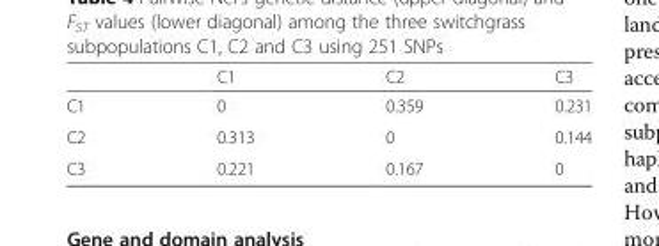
<table><thead><tr><td></td><td>C1</td><td>C2</td><td>C3</td></tr></thead><tbody><tr><td>C1</td><td>0</td><td>0.359</td><td>0.231</td></tr><tr><td>C2</td><td>0.313</td><td>0</td><td>0.144</td></tr><tr><td>C3</td><td>0.221</td><td>0.167</td><td>0</td></tr></tbody></table>